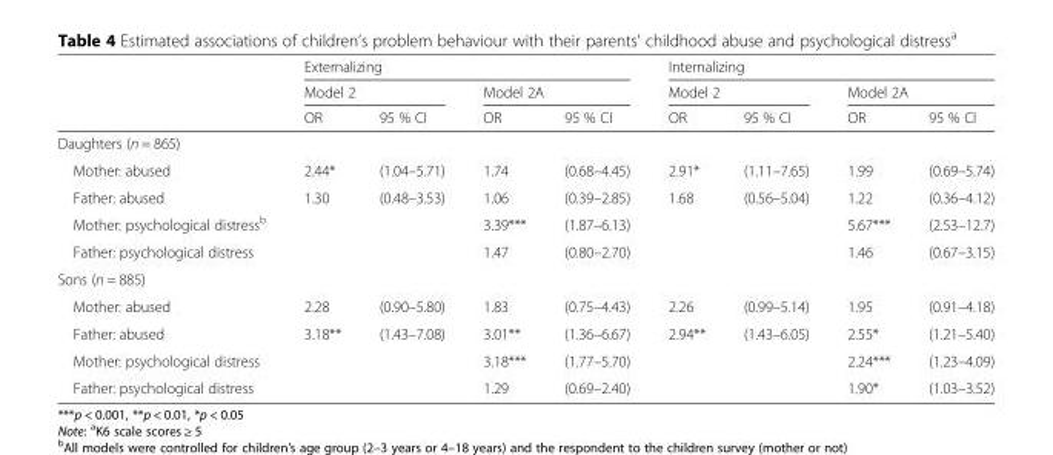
<table><thead><tr><td rowspan="3"></td><td colspan="4">Externalizing</td><td colspan="4">Internalizing</td></tr><tr><td colspan="2">Model 2</td><td colspan="2">Model 2A</td><td colspan="2">Model 2</td><td colspan="2">Model 2A</td></tr><tr><td>OR</td><td>95 % CI</td><td>OR</td><td>95 % CI</td><td>OR</td><td>95 % CI</td><td>OR</td><td>95 % CI</td></tr></thead><tbody><tr><td colspan="9">Daughters (n = 865)</td></tr><tr><td>Mother: abused</td><td>2.44*</td><td>(1.04–5.71)</td><td>1.74</td><td>(0.68–4.45)</td><td>2.91*</td><td>(1.11–7.65)</td><td>1.99</td><td>(0.69–5.74)</td></tr><tr><td>Father: abused</td><td>1.30</td><td>(0.48–3.53)</td><td>1.06</td><td>(0.39–2.85)</td><td>1.68</td><td>(0.56–5.04)</td><td>1.22</td><td>(0.36–4.12)</td></tr><tr><td>Mother: psychological distress<sup>b</sup></td><td></td><td></td><td>3.39***</td><td>(1.87–6.13)</td><td></td><td></td><td>5.67***</td><td>(2.53–12.7)</td></tr><tr><td>Father: psychological distress</td><td></td><td></td><td>1.47</td><td>(0.80–2.70)</td><td></td><td></td><td>1.46</td><td>(0.67–3.15)</td></tr><tr><td colspan="9">Sons (n = 885)</td></tr><tr><td>Mother: abused</td><td>2.28</td><td>(0.90–5.80)</td><td>1.83</td><td>(0.75–4.43)</td><td>2.26</td><td>(0.99–5.14)</td><td>1.95</td><td>(0.91–4.18)</td></tr><tr><td>Father: abused</td><td>3.18**</td><td>(1.43–7.08)</td><td>3.01**</td><td>(1.36–6.67)</td><td>2.94**</td><td>(1.43–6.05)</td><td>2.55*</td><td>(1.21–5.40)</td></tr><tr><td>Mother: psychological distress</td><td></td><td></td><td>3.18***</td><td>(1.77–5.70)</td><td></td><td></td><td>2.24***</td><td>(1.23–4.09)</td></tr><tr><td>Father: psychological distress</td><td></td><td></td><td>1.29</td><td>(0.69–2.40)</td><td></td><td></td><td>1.90*</td><td>(1.03–3.52)</td></tr></tbody></table>